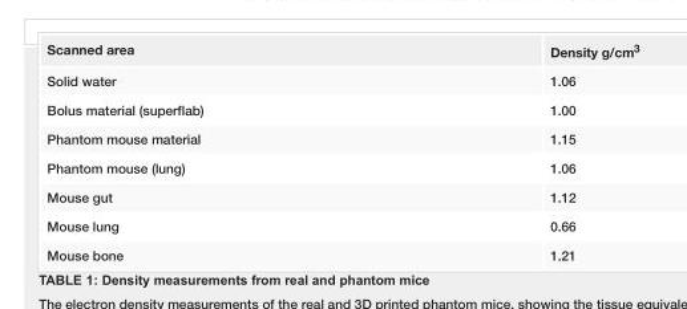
<table><tbody><tr><td>Scanned area</td><td>Density g/cm<sup>3</sup></td></tr><tr><td>Solid water</td><td>1.06</td></tr><tr><td>Bolus material (superflab)</td><td>1.00</td></tr><tr><td>Phantom mouse material</td><td>1.15</td></tr><tr><td>Phantom mouse (lung)</td><td>1.06</td></tr><tr><td>Mouse gut</td><td>1.12</td></tr><tr><td>Mouse lung</td><td>0.66</td></tr><tr><td>Mouse bone</td><td>1.21</td></tr></tbody></table>